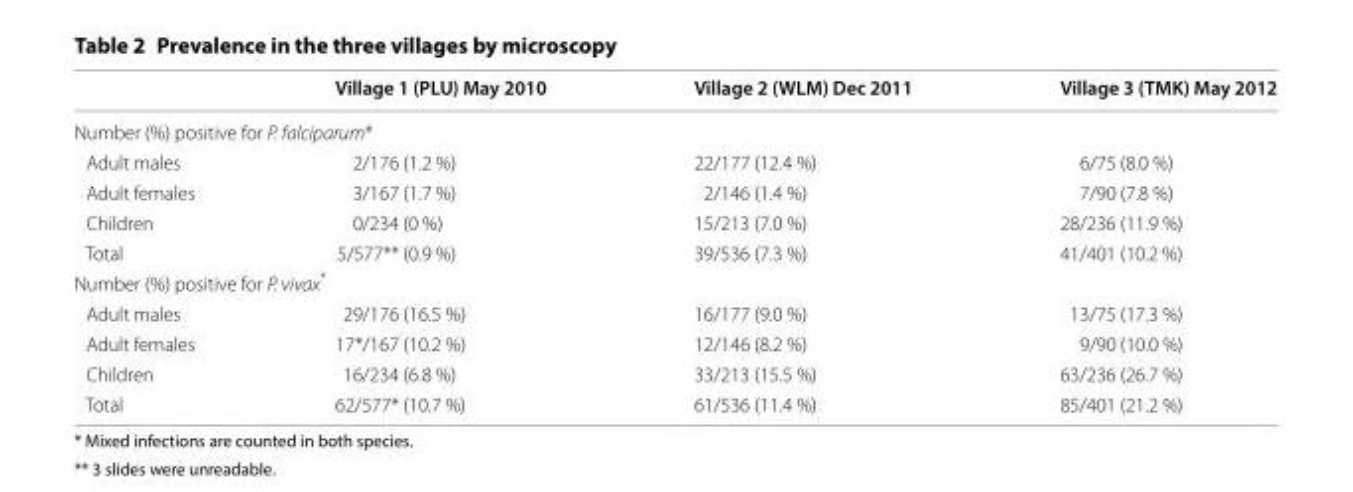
<table><thead><tr><td></td><td>Village 1 (PLU) May 2010</td><td>Village 2 (WLM) Dec 2011</td><td>Village 3 (TMK) May 2012</td></tr></thead><tbody><tr><td colspan="4">Number (%) positive for P. falciparum*</td></tr><tr><td>Adult males</td><td>2/176 (1.2 %)</td><td>22/177 (12.4 %)</td><td>6/75 (8.0 %)</td></tr><tr><td>Adult females</td><td>3/167 (1.7 %)</td><td>2/146 (1.4 %)</td><td>7/90 (7.8 %)</td></tr><tr><td>Children</td><td>0/234 (0 %)</td><td>15/213 (7.0 %)</td><td>28/236 (11.9 %)</td></tr><tr><td>Total</td><td>5/577** (0.9 %)</td><td>39/536 (7.3 %)</td><td>41/401 (10.2 %)</td></tr><tr><td colspan="4">Number (%) positive for P. vivax*</td></tr><tr><td>Adult males</td><td>29/176 (16.5 %)</td><td>16/177 (9.0 %)</td><td>13/75 (17.3 %)</td></tr><tr><td>Adult females</td><td>17*/167 (10.2 %)</td><td>12/146 (8.2 %)</td><td>9/90 (10.0 %)</td></tr><tr><td>Children</td><td>16/234 (6.8 %)</td><td>33/213 (15.5 %)</td><td>63/236 (26.7 %)</td></tr><tr><td>Total</td><td>62/577* (10.7 %)</td><td>61/536 (11.4 %)</td><td>85/401 (21.2 %)</td></tr></tbody></table>